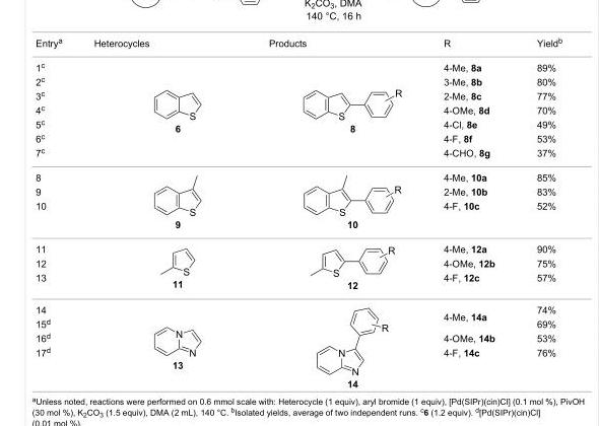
<table><tbody><tr><td>Entry<sup>a</sup></td><td>Heterocycles</td><td>Products</td><td>R</td><td>Yield<sup>b</sup></td></tr><tr><td>1<sup>c</sup></td><td rowspan="7">6</td><td rowspan="7">8</td><td>4-Me, 8a</td><td>89%</td></tr><tr><td>2<sup>c</sup></td><td>3-Me, 8b</td><td>80%</td></tr><tr><td>3<sup>c</sup></td><td>2-Me, 8c</td><td>77%</td></tr><tr><td>4<sup>c</sup></td><td>4-OMe, 8d</td><td>70%</td></tr><tr><td>5<sup>c</sup></td><td>4-Cl, 8e</td><td>49%</td></tr><tr><td>6<sup>c</sup></td><td>4-F, 8f</td><td>53%</td></tr><tr><td>7<sup>c</sup></td><td>4-CHO, 8g</td><td>37%</td></tr><tr><td>8</td><td rowspan="3">9</td><td rowspan="3">10</td><td>4-Me, 10a</td><td>85%</td></tr><tr><td>9</td><td>2-Me, 10b</td><td>83%</td></tr><tr><td>10</td><td>4-F, 10c</td><td>52%</td></tr><tr><td>11</td><td rowspan="3">11</td><td rowspan="3">12</td><td>4-Me, 12a</td><td>90%</td></tr><tr><td>12</td><td>4-OMe, 12b</td><td>75%</td></tr><tr><td>13</td><td>4-F, 12c</td><td>57%</td></tr><tr><td>14</td><td rowspan="4">13</td><td rowspan="4">14</td><td rowspan="2">4-Me, 14a</td><td>74%</td></tr><tr><td>15<sup>d</sup></td><td>69%</td></tr><tr><td>16<sup>d</sup></td><td>4-OMe, 14b</td><td>53%</td></tr><tr><td>17<sup>d</sup></td><td>4-F, 14c</td><td>76%</td></tr></tbody></table>